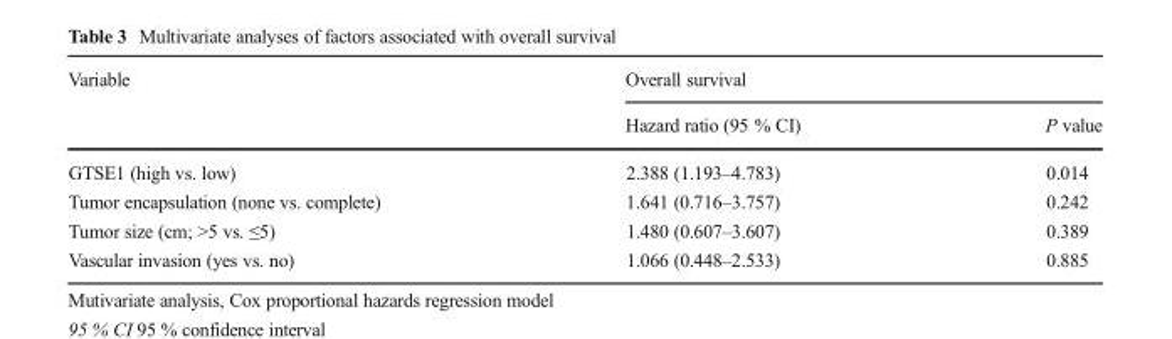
<table><thead><tr><td rowspan="2">Variable</td><td colspan="2">Overall survival</td></tr><tr><td>Hazard ratio (95 % CI)</td><td>P value</td></tr></thead><tbody><tr><td>GTSE1 (high vs. low)</td><td>2.388 (1.193–4.783)</td><td>0.014</td></tr><tr><td>Tumor encapsulation (none vs. complete)</td><td>1.641 (0.716–3.757)</td><td>0.242</td></tr><tr><td>Tumor size (cm; &gt;5 vs. ≤5)</td><td>1.480 (0.607–3.607)</td><td>0.389</td></tr><tr><td>Vascular invasion (yes vs. no)</td><td>1.066 (0.448–2.533)</td><td>0.885</td></tr></tbody></table>